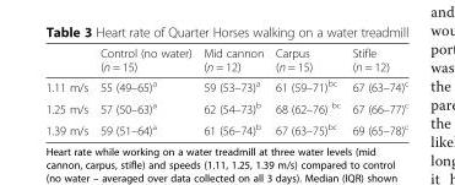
<table><thead><tr><td></td><td>Control (no water) (n = 15)</td><td>Mid cannon (n = 12)</td><td>Carpus (n = 15)</td><td>Stifle (n = 12)</td></tr></thead><tbody><tr><td>1.11 m/s</td><td>55 (49–65)<sup>a</sup></td><td>59 (53–73)<sup>a</sup></td><td>61 (59–71)<sup>bc</sup></td><td>67 (63–74)<sup>c</sup></td></tr><tr><td>1.25 m/s</td><td>57 (50–63)<sup>a</sup></td><td>62 (54–73)<sup>b</sup></td><td>68 (62–76) <sup>bc</sup></td><td>67 (66–77)<sup>c</sup></td></tr><tr><td>1.39 m/s</td><td>59 (51–64)<sup>a</sup></td><td>61 (56–74)<sup>b</sup></td><td>67 (63–75)<sup>bc</sup></td><td>69 (65–78)<sup>c</sup></td></tr></tbody></table>